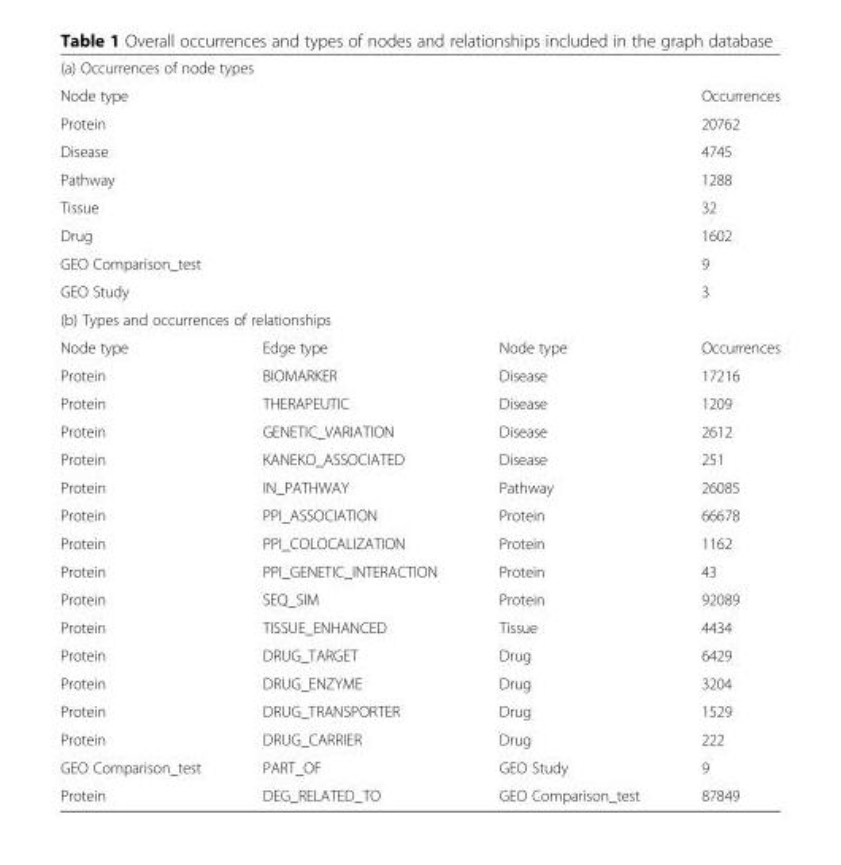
<table><tbody><tr><td colspan="4">(a) Occurrences of node types</td></tr><tr><td colspan="3">Node type</td><td>Occurrences</td></tr><tr><td colspan="3">Protein</td><td>20762</td></tr><tr><td colspan="3">Disease</td><td>4745</td></tr><tr><td colspan="3">Pathway</td><td>1288</td></tr><tr><td colspan="3">Tissue</td><td>32</td></tr><tr><td colspan="3">Drug</td><td>1602</td></tr><tr><td colspan="3">GEO Comparison_test</td><td>9</td></tr><tr><td colspan="3">GEO Study</td><td>3</td></tr><tr><td colspan="4">(b) Types and occurrences of relationships</td></tr><tr><td>Node type</td><td>Edge type</td><td>Node type</td><td>Occurrences</td></tr><tr><td>Protein</td><td>BIOMARKER</td><td>Disease</td><td>17216</td></tr><tr><td>Protein</td><td>THERAPEUTIC</td><td>Disease</td><td>1209</td></tr><tr><td>Protein</td><td>GENETIC_VARIATION</td><td>Disease</td><td>2612</td></tr><tr><td>Protein</td><td>KANEKO_ASSOCIATED</td><td>Disease</td><td>251</td></tr><tr><td>Protein</td><td>IN_PATHWAY</td><td>Pathway</td><td>26085</td></tr><tr><td>Protein</td><td>PPI_ASSOCIATION</td><td>Protein</td><td>66678</td></tr><tr><td>Protein</td><td>PPI_COLOCALIZATION</td><td>Protein</td><td>1162</td></tr><tr><td>Protein</td><td>PPI_GENETIC_INTERACTION</td><td>Protein</td><td>43</td></tr><tr><td>Protein</td><td>SEQ_SIM</td><td>Protein</td><td>92089</td></tr><tr><td>Protein</td><td>TISSUE_ENHANCED</td><td>Tissue</td><td>4434</td></tr><tr><td>Protein</td><td>DRUG_TARGET</td><td>Drug</td><td>6429</td></tr><tr><td>Protein</td><td>DRUG_ENZYME</td><td>Drug</td><td>3204</td></tr><tr><td>Protein</td><td>DRUG_TRANSPORTER</td><td>Drug</td><td>1529</td></tr><tr><td>Protein</td><td>DRUG_CARRIER</td><td>Drug</td><td>222</td></tr><tr><td>GEO Comparison_test</td><td>PART_OF</td><td>GEO Study</td><td>9</td></tr><tr><td>Protein</td><td>DEG_RELATED_TO</td><td>GEO Comparison_test</td><td>87849</td></tr></tbody></table>